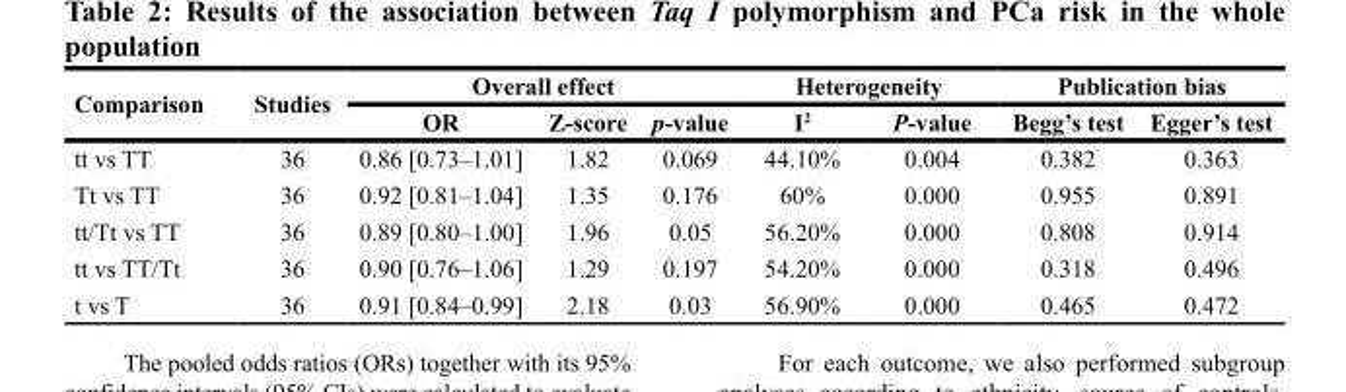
<table><thead><tr><td rowspan="2">Comparison</td><td rowspan="2">Studies</td><td colspan="3">Overall effect</td><td colspan="2">Heterogeneity</td><td colspan="2">Publication bias</td></tr><tr><td>OR</td><td>Z-score</td><td>p-value</td><td>I<sup>2</sup></td><td>P-value</td><td>Begg’s test</td><td>Egger’s test</td></tr></thead><tbody><tr><td>tt vs TT</td><td>36</td><td>0.86 [0.73–1.01]</td><td>1.82</td><td>0.069</td><td>44.10%</td><td>0.004</td><td>0.382</td><td>0.363</td></tr><tr><td>Tt vs TT</td><td>36</td><td>0.92 [0.81–1.04]</td><td>1.35</td><td>0.176</td><td>60%</td><td>0.000</td><td>0.955</td><td>0.891</td></tr><tr><td>tt/Tt vs TT</td><td>36</td><td>0.89 [0.80–1.00]</td><td>1.96</td><td>0.05</td><td>56.20%</td><td>0.000</td><td>0.808</td><td>0.914</td></tr><tr><td>tt vs TT/Tt</td><td>36</td><td>0.90 [0.76–1.06]</td><td>1.29</td><td>0.197</td><td>54.20%</td><td>0.000</td><td>0.318</td><td>0.496</td></tr><tr><td>t vs T</td><td>36</td><td>0.91 [0.84–0.99]</td><td>2.18</td><td>0.03</td><td>56.90%</td><td>0.000</td><td>0.465</td><td>0.472</td></tr></tbody></table>